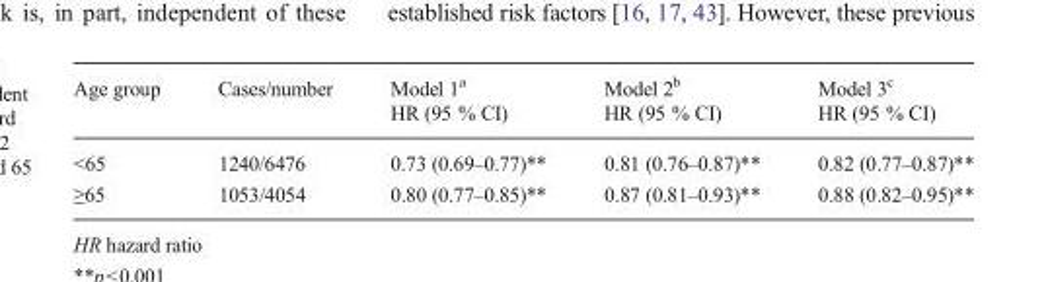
<table><thead><tr><td rowspan="2">Age group</td><td rowspan="2">Cases/number</td><td rowspan="2">Model 1<sup>a</sup> HR (95 % CI)</td><td rowspan="2">Model 2<sup>b</sup> HR (95 % CI)</td><td rowspan="2">Model 3<sup>c</sup> HR (95 % CI)</td></tr><tr></tr></thead><tbody><tr><td>&lt;65</td><td>1240/6476</td><td>0.73 (0.69–0.77)**</td><td>0.81 (0.76–0.87)**</td><td>0.82 (0.77–0.87)**</td></tr><tr><td>≥65</td><td>1053/4054</td><td>0.80 (0.77–0.85)**</td><td>0.87 (0.81–0.93)**</td><td>0.88 (0.82–0.95)**</td></tr></tbody></table>